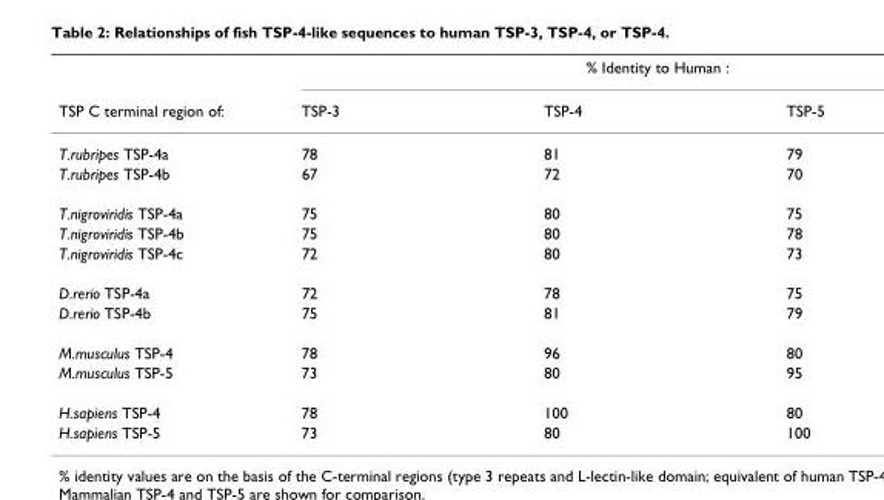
<table><thead><tr><td rowspan="2">TSP C terminal region of:</td><td colspan="3">% Identity to Human :</td></tr><tr><td>TSP-3</td><td>TSP-4</td><td>TSP-5</td></tr></thead><tbody><tr><td>T.rubripes TSP-4a</td><td>78</td><td>81</td><td>79</td></tr><tr><td>T.rubripes TSP-4b</td><td>67</td><td>72</td><td>70</td></tr><tr><td>T.nigroviridis TSP-4a</td><td>75</td><td>80</td><td>75</td></tr><tr><td>T.nigroviridis TSP-4b</td><td>75</td><td>80</td><td>78</td></tr><tr><td>T.nigroviridis TSP-4c</td><td>72</td><td>80</td><td>73</td></tr><tr><td>D.rerio TSP-4a</td><td>72</td><td>78</td><td>75</td></tr><tr><td>D.rerio TSP-4b</td><td>75</td><td>81</td><td>79</td></tr><tr><td>M.musculus TSP-4</td><td>78</td><td>96</td><td>80</td></tr><tr><td>M.musculus TSP-5</td><td>73</td><td>80</td><td>95</td></tr><tr><td>H.sapiens TSP-4</td><td>78</td><td>100</td><td>80</td></tr><tr><td>H.sapiens TSP-5</td><td>73</td><td>80</td><td>100</td></tr></tbody></table>